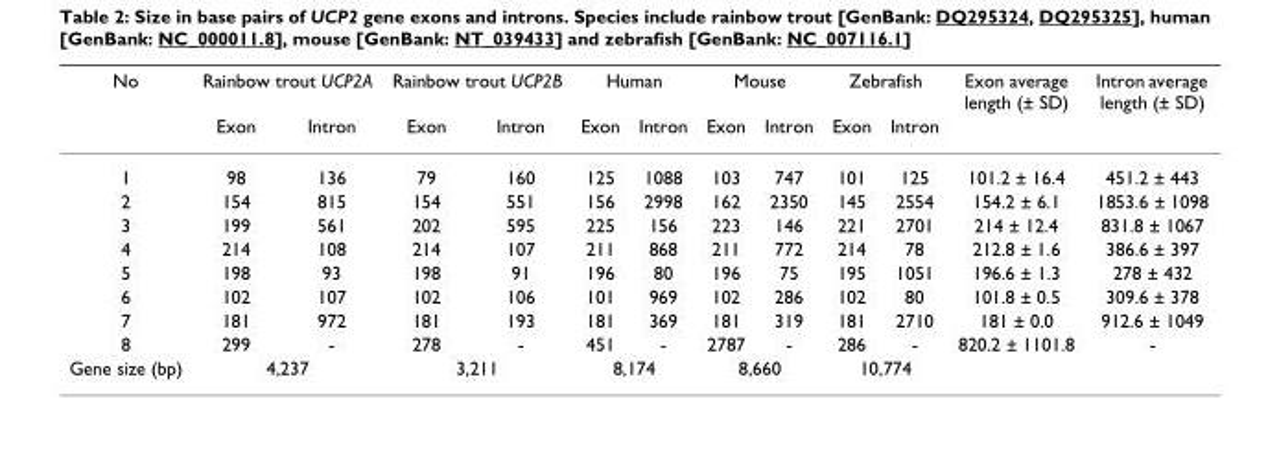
<table><thead><tr><td rowspan="2">No</td><td colspan="2">Rainbow trout UCP2A</td><td colspan="2">Rainbow trout UCP2B</td><td colspan="2">Human</td><td colspan="2">Mouse</td><td colspan="2">Zebrafish</td><td rowspan="2">Exon average length (± SD)</td><td rowspan="2">Intron average length (± SD)</td></tr><tr><td>Exon</td><td>Intron</td><td>Exon</td><td>Intron</td><td>Exon</td><td>Intron</td><td>Exon</td><td>Intron</td><td>Exon</td><td>Intron</td></tr></thead><tbody><tr><td>1</td><td>98</td><td>136</td><td>79</td><td>160</td><td>125</td><td>1088</td><td>103</td><td>747</td><td>101</td><td>125</td><td>101.2 ± 16.4</td><td>451.2 ± 443</td></tr><tr><td>2</td><td>154</td><td>815</td><td>154</td><td>551</td><td>156</td><td>2998</td><td>162</td><td>2350</td><td>145</td><td>2554</td><td>154.2 ± 6.1</td><td>1853.6 ± 1098</td></tr><tr><td>3</td><td>199</td><td>561</td><td>202</td><td>595</td><td>225</td><td>156</td><td>223</td><td>146</td><td>221</td><td>2701</td><td>214 ± 12.4</td><td>831.8 ± 1067</td></tr><tr><td>4</td><td>214</td><td>108</td><td>214</td><td>107</td><td>211</td><td>868</td><td>211</td><td>772</td><td>214</td><td>78</td><td>212.8 ± 1.6</td><td>386.6 ± 397</td></tr><tr><td>5</td><td>198</td><td>93</td><td>198</td><td>91</td><td>196</td><td>80</td><td>196</td><td>75</td><td>195</td><td>1051</td><td>196.6 ± 1.3</td><td>278 ± 432</td></tr><tr><td>6</td><td>102</td><td>107</td><td>102</td><td>106</td><td>101</td><td>969</td><td>102</td><td>286</td><td>102</td><td>80</td><td>101.8 ± 0.5</td><td>309.6 ± 378</td></tr><tr><td>7</td><td>181</td><td>972</td><td>181</td><td>193</td><td>181</td><td>369</td><td>181</td><td>319</td><td>181</td><td>2710</td><td>181 ± 0.0</td><td>912.6 ± 1049</td></tr><tr><td>8</td><td>299</td><td>-</td><td>278</td><td>-</td><td>451</td><td>-</td><td>2787</td><td>-</td><td>286</td><td>-</td><td>820.2 ± 1101.8</td><td>-</td></tr><tr><td>Gene size (bp)</td><td colspan="2">4,237</td><td colspan="2">3,211</td><td colspan="2">8,174</td><td colspan="2">8,660</td><td colspan="2">10,774</td><td></td><td></td></tr></tbody></table>